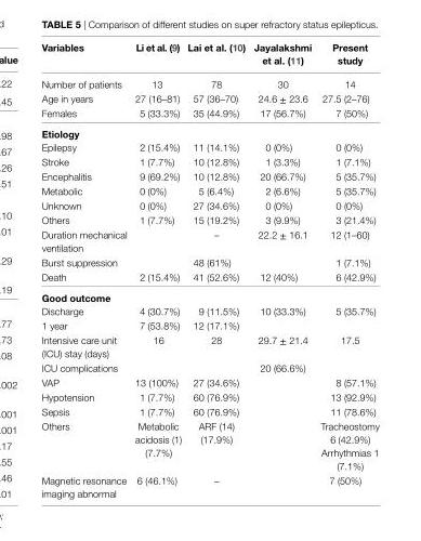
<table><thead><tr><td>Variables</td><td>li et al. (9)</td><td>lai et al. (10)</td><td>Jayalakshmi et al. (11)</td><td>Present study</td></tr></thead><tbody><tr><td>Number of patients</td><td>13</td><td>78</td><td>30</td><td>14</td></tr><tr><td>Age in years</td><td>27 (16–81)</td><td>57 (36–70)</td><td>24.6 ± 23.6</td><td>27.5 (2–76)</td></tr><tr><td>Females</td><td>5 (33.3%)</td><td>35 (44.9%)</td><td>17 (56.7%)</td><td>7 (50%)</td></tr><tr><td colspan="5">etiology</td></tr><tr><td>Epilepsy</td><td>2 (15.4%)</td><td>11 (14.1%)</td><td>0 (0%)</td><td>0 (0%)</td></tr><tr><td>Stroke</td><td>1 (7.7%)</td><td>10 (12.8%)</td><td>1 (3.3%)</td><td>1 (7.1%)</td></tr><tr><td>Encephalitis</td><td>9 (69.2%)</td><td>10 (12.8%)</td><td>20 (66.7%)</td><td>5 (35.7%)</td></tr><tr><td>Metabolic</td><td>0 (0%)</td><td>5 (6.4%)</td><td>2 (6.6%)</td><td>5 (35.7%)</td></tr><tr><td>Unknown</td><td>0 (0%)</td><td>27 (34.6%)</td><td>0 (0%)</td><td>0 (0%)</td></tr><tr><td>Others</td><td>1 (7.7%)</td><td>15 (19.2%)</td><td>3 (9.9%)</td><td>3 (21.4%)</td></tr><tr><td>Duration mechanical ventilation</td><td></td><td>–</td><td>22.2 ± 16.1</td><td>12 (1–60)</td></tr><tr><td>Burst suppression</td><td></td><td>48 (61%)</td><td></td><td>1 (7.1%)</td></tr><tr><td>Death</td><td>2 (15.4%)</td><td>41 (52.6%)</td><td>12 (40%)</td><td>6 (42.9%)</td></tr><tr><td colspan="5">good outcome</td></tr><tr><td>Discharge</td><td>4 (30.7%)</td><td>9 (11.5%)</td><td>10 (33.3%)</td><td>5 (35.7%)</td></tr><tr><td>1 year</td><td>7 (53.8%)</td><td>12 (17.1%)</td><td></td><td></td></tr><tr><td>Intensive care unit (ICU) stay (days)</td><td>16</td><td>28</td><td>29.7 ± 21.4</td><td>17.5</td></tr><tr><td>ICU complications</td><td></td><td></td><td>20 (66.6%)</td><td></td></tr><tr><td>VAP</td><td>13 (100%)</td><td>27 (34.6%)</td><td></td><td>8 (57.1%)</td></tr><tr><td>Hypotension</td><td>1 (7.7%)</td><td>60 (76.9%)</td><td></td><td>13 (92.9%)</td></tr><tr><td>Sepsis</td><td>1 (7.7%)</td><td>60 (76.9%)</td><td></td><td>11 (78.6%)</td></tr><tr><td rowspan="2">Others</td><td rowspan="2">Metabolic acidosis (1) (7.7%)</td><td rowspan="2">ARF (14) (17.9%)</td><td rowspan="2"></td><td>Tracheostomy 6 (42.9%)</td></tr><tr><td>Arrhythmias 1 (7.1%)</td></tr><tr><td>Magnetic resonance imaging abnormal</td><td>6 (46.1%)</td><td>–</td><td></td><td>7 (50%)</td></tr></tbody></table>